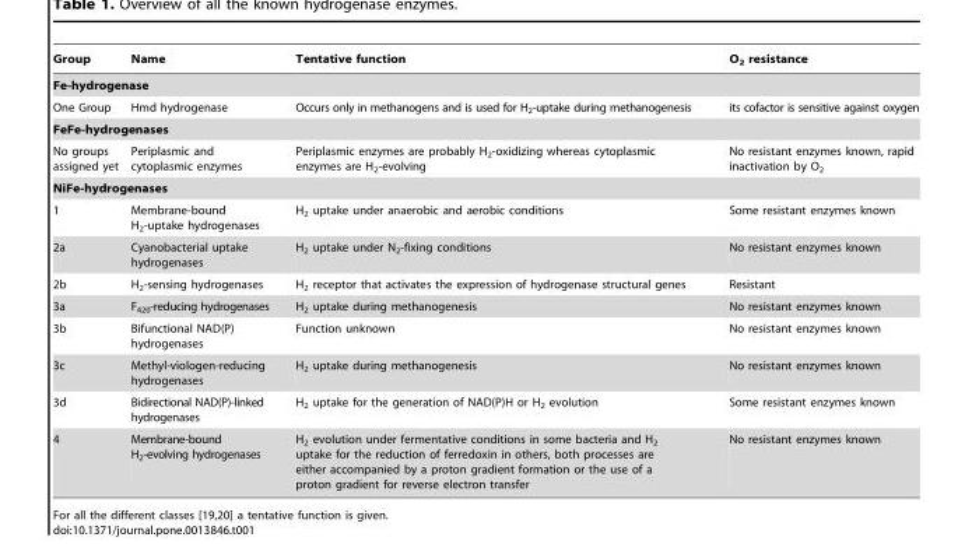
<table><thead><tr><td>Group</td><td>Name</td><td>Tentative function</td><td>O<sub>2</sub> resistance</td></tr></thead><tbody><tr><td colspan="4">Fe-hydrogenase</td></tr><tr><td>One Group</td><td>Hmd hydrogenase</td><td>Occurs only in methanogens and is used for H<sub>2</sub>-uptake during methanogenesis</td><td>its cofactor is sensitive against oxygen</td></tr><tr><td colspan="4">FeFe-hydrogenases</td></tr><tr><td>No groups assigned yet</td><td>Periplasmic and cytoplasmic enzymes</td><td>Periplasmic enzymes are probably H<sub>2</sub>-oxidizing whereas cytoplasmic enzymes are H<sub>2</sub>-evolving</td><td>No resistant enzymes known, rapid inactivation by O<sub>2</sub></td></tr><tr><td colspan="4">NiFe-hydrogenases</td></tr><tr><td>1</td><td>Membrane-bound H<sub>2</sub>-uptake hydrogenases</td><td>H<sub>2</sub> uptake under anaerobic and aerobic conditions</td><td>Some resistant enzymes known</td></tr><tr><td>2a</td><td>Cyanobacterial uptake hydrogenases</td><td>H<sub>2</sub> uptake under N<sub>2</sub>-fixing conditions</td><td>No resistant enzymes known</td></tr><tr><td>2b</td><td>H<sub>2</sub>-sensing hydrogenases</td><td>H<sub>2</sub> receptor that activates the expression of hydrogenase structural genes</td><td>Resistant</td></tr><tr><td>3a</td><td>F<sub>420</sub>-reducing hydrogenases</td><td>H<sub>2</sub> uptake during methanogenesis</td><td>No resistant enzymes known</td></tr><tr><td>3b</td><td>Bifunctional NAD(P) hydrogenases</td><td>Function unknown</td><td>No resistant enzymes known</td></tr><tr><td>3c</td><td>Methyl-viologen-reducing hydrogenases</td><td>H<sub>2</sub> uptake during methanogenesis</td><td>No resistant enzymes known</td></tr><tr><td>3d</td><td>Bidirectional NAD(P)-linked hydrogenases</td><td>H<sub>2</sub> uptake for the generation of NAD(P)H or H<sub>2</sub> evolution</td><td>Some resistant enzymes known</td></tr><tr><td>4</td><td>Membrane-bound H<sub>2</sub>-evolving hydrogenases</td><td>H<sub>2</sub> evolution under fermentative conditions in some bacteria and H<sub>2</sub> uptake for the reduction of ferredoxin in others, both processes are either accompanied by a proton gradient formation or the use of a proton gradient for reverse electron transfer</td><td>No resistant enzymes known</td></tr></tbody></table>